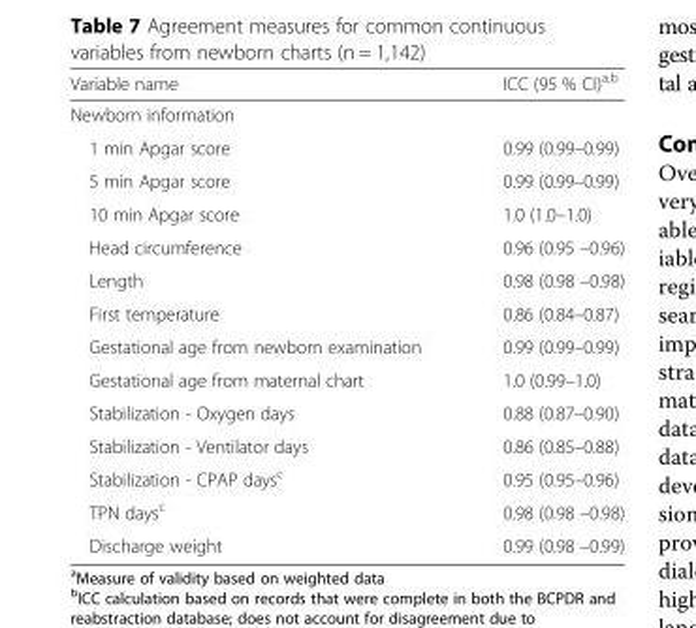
<table><thead><tr><td>Variable name</td><td>ICC (95 % CI)<sup>a,b</sup></td></tr></thead><tbody><tr><td colspan="2">Newborn information</td></tr><tr><td>1 min Apgar score</td><td>0.99 (0.99–0.99)</td></tr><tr><td>5 min Apgar score</td><td>0.99 (0.99–0.99)</td></tr><tr><td>10 min Apgar score</td><td>1.0 (1.0–1.0)</td></tr><tr><td>Head circumference</td><td>0.96 (0.95 –0.96)</td></tr><tr><td>Length</td><td>0.98 (0.98 –0.98)</td></tr><tr><td>First temperature</td><td>0.86 (0.84–0.87)</td></tr><tr><td>Gestational age from newborn examination</td><td>0.99 (0.99–0.99)</td></tr><tr><td>Gestational age from maternal chart</td><td>1.0 (0.99–1.0)</td></tr><tr><td>Stabilization - Oxygen days</td><td>0.88 (0.87–0.90)</td></tr><tr><td>Stabilization - Ventilator days</td><td>0.86 (0.85–0.88)</td></tr><tr><td>Stabilization - CPAP days<sup>c</sup></td><td>0.95 (0.95–0.96)</td></tr><tr><td>TPN days<sup>c</sup></td><td>0.98 (0.98 –0.98)</td></tr><tr><td>Discharge weight</td><td>0.99 (0.98 –0.99)</td></tr></tbody></table>